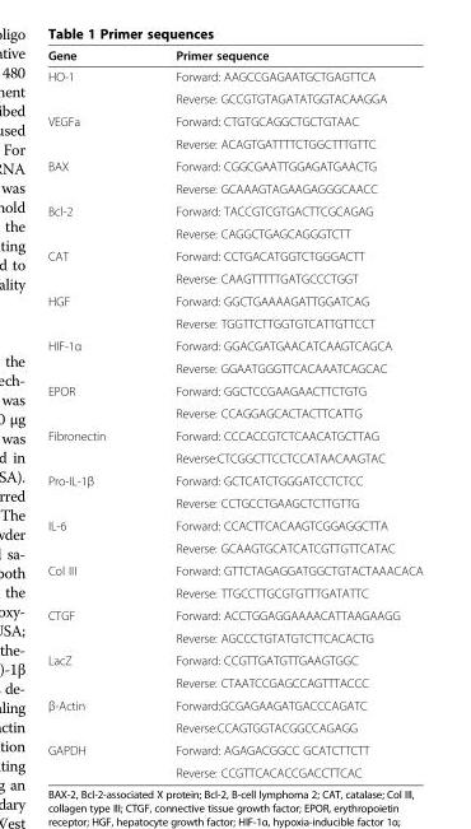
<table><thead><tr><td>Gene</td><td>Primer sequence</td></tr></thead><tbody><tr><td rowspan="2">HO-1</td><td>Forward: AAGCCGAGAATGCTGAGTTCA</td></tr><tr><td>Reverse: GCCGTGTAGATATGGTACAAGGA</td></tr><tr><td rowspan="2">VEGFa</td><td>Forward: CTGTGCAGGCTGCTGTAAC</td></tr><tr><td>Reverse: ACAGTGATTTTCTGGCTTTGTTC</td></tr><tr><td rowspan="2">BAX</td><td>Forward: CGGCGAATTGGAGATGAACTG</td></tr><tr><td>Reverse: GCAAAGTAGAAGAGGGCAACC</td></tr><tr><td rowspan="2">Bcl-2</td><td>Forward: TACCGTCGTGACTTCGCAGAG</td></tr><tr><td>Reverse: CAGGCTGAGCAGGGTCTT</td></tr><tr><td rowspan="2">CAT</td><td>Forward: CCTGACATGGTCTGGGACTT</td></tr><tr><td>Reverse: CAAGTTTTTGATGCCCTGGT</td></tr><tr><td rowspan="2">HGF</td><td>Forward: GGCTGAAAAGATTGGATCAG</td></tr><tr><td>Reverse: TGGTTCTTGGTGTCATTGTTCCT</td></tr><tr><td rowspan="2">HIF-1α</td><td>Forward: GGACGATGAACATCAAGTCAGCA</td></tr><tr><td>Reverse: GGAATGGGTTCACAAATCAGCAC</td></tr><tr><td rowspan="2">EPOR</td><td>Forward: GGCTCCGAAGAACTTCTGTG</td></tr><tr><td>Reverse: CCAGGAGCACTACTTCATTG</td></tr><tr><td rowspan="2">Fibronectin</td><td>Forward: CCCACCGTCTCAACATGCTTAG</td></tr><tr><td>Reverse:CTCGGCTTCCTCCATAACAAGTAC</td></tr><tr><td rowspan="2">Pro-IL-1β</td><td>Forward: GCTCATCTGGGATCCTCTCC</td></tr><tr><td>Reverse: CCTGCCTGAAGCTCTTGTTG</td></tr><tr><td rowspan="2">IL-6</td><td>Forward: CCACTTCACAAGTCGGAGGCTTA</td></tr><tr><td>Reverse: GCAAGTGCATCATCGTTGTTCATAC</td></tr><tr><td rowspan="2">Col III</td><td>Forward: GTTCTAGAGGATGGCTGTACTAAACACA</td></tr><tr><td>Reverse: TTGCCTTGCGTGTTTGATATTC</td></tr><tr><td rowspan="2">CTGF</td><td>Forward: ACCTGGAGGAAAACATTAAGAAGG</td></tr><tr><td>Reverse: AGCCCTGTATGTCTTCACACTG</td></tr><tr><td rowspan="2">LacZ</td><td>Forward: CCGTTGATGTTGAAGTGGC</td></tr><tr><td>Reverse: CTAATCCGAGCCAGTTTACCC</td></tr><tr><td rowspan="2">β-Actin</td><td>Forward:GCGAGAAGATGACCCAGATC</td></tr><tr><td>Reverse:CCAGTGGTACGGCCAGAGG</td></tr><tr><td rowspan="2">GAPDH</td><td>Forward: AGAGACGGCC GCATCTTCTT</td></tr><tr><td>Reverse: CCGTTCACACCGACCTTCAC</td></tr></tbody></table>